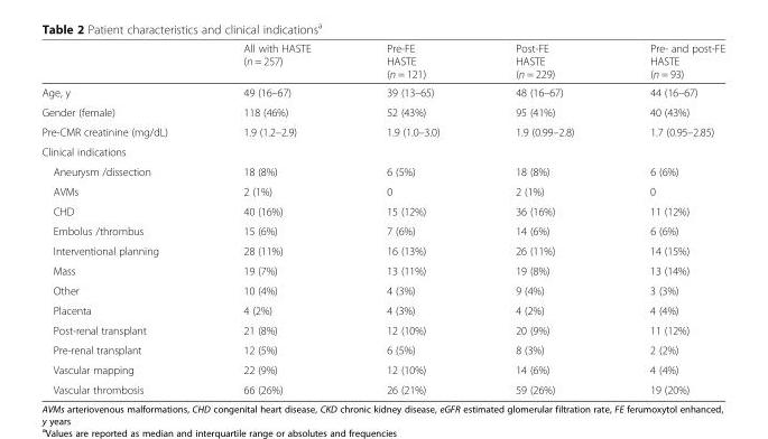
<table><thead><tr><td></td><td>All with HASTE (n = 257)</td><td>Pre-FE HASTE (n = 121)</td><td>Post-FE HASTE (n = 229)</td><td>Pre- and post-FE HASTE (n = 93)</td></tr></thead><tbody><tr><td>Age, y</td><td>49 (16–67)</td><td>39 (13–65)</td><td>48 (16–67)</td><td>44 (16–67)</td></tr><tr><td>Gender (female)</td><td>118 (46%)</td><td>52 (43%)</td><td>95 (41%)</td><td>40 (43%)</td></tr><tr><td>Pre-CMR creatinine (mg/dL)</td><td>1.9 (1.2–2.9)</td><td>1.9 (1.0–3.0)</td><td>1.9 (0.99–2.8)</td><td>1.7 (0.95–2.85)</td></tr><tr><td colspan="5">Clinical indications</td></tr><tr><td>Aneurysm /dissection</td><td>18 (8%)</td><td>6 (5%)</td><td>18 (8%)</td><td>6 (6%)</td></tr><tr><td>AVMs</td><td>2 (1%)</td><td>0</td><td>2 (1%)</td><td>0</td></tr><tr><td>CHD</td><td>40 (16%)</td><td>15 (12%)</td><td>36 (16%)</td><td>11 (12%)</td></tr><tr><td>Embolus /thrombus</td><td>15 (6%)</td><td>7 (6%)</td><td>14 (6%)</td><td>6 (6%)</td></tr><tr><td>Interventional planning</td><td>28 (11%)</td><td>16 (13%)</td><td>26 (11%)</td><td>14 (15%)</td></tr><tr><td>Mass</td><td>19 (7%)</td><td>13 (11%)</td><td>19 (8%)</td><td>13 (14%)</td></tr><tr><td>Other</td><td>10 (4%)</td><td>4 (3%)</td><td>9 (4%)</td><td>3 (3%)</td></tr><tr><td>Placenta</td><td>4 (2%)</td><td>4 (3%)</td><td>4 (2%)</td><td>4 (4%)</td></tr><tr><td>Post-renal transplant</td><td>21 (8%)</td><td>12 (10%)</td><td>20 (9%)</td><td>11 (12%)</td></tr><tr><td>Pre-renal transplant</td><td>12 (5%)</td><td>6 (5%)</td><td>8 (3%)</td><td>2 (2%)</td></tr><tr><td>Vascular mapping</td><td>22 (9%)</td><td>12 (10%)</td><td>14 (6%)</td><td>4 (4%)</td></tr><tr><td>Vascular thrombosis</td><td>66 (26%)</td><td>26 (21%)</td><td>59 (26%)</td><td>19 (20%)</td></tr></tbody></table>